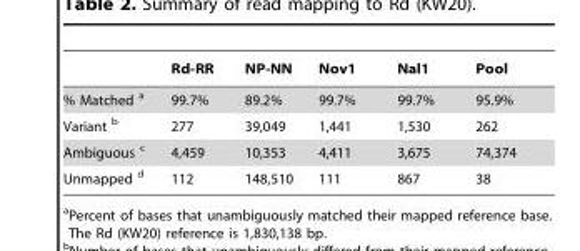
<table><thead><tr><td></td><td>Rd-RR</td><td>NP-NN</td><td>Nov1</td><td>Nal1</td><td>Pool</td></tr></thead><tbody><tr><td>% Matched a</td><td>99.7%</td><td>89.2%</td><td>99.7%</td><td>99.7%</td><td>95.9%</td></tr><tr><td>Variant b</td><td>277</td><td>39,049</td><td>1,441</td><td>1,530</td><td>262</td></tr><tr><td>Ambiguous c</td><td>4,459</td><td>10,353</td><td>4,411</td><td>3,675</td><td>74,374</td></tr><tr><td>Unmapped d</td><td>112</td><td>148,510</td><td>111</td><td>867</td><td>38</td></tr></tbody></table>